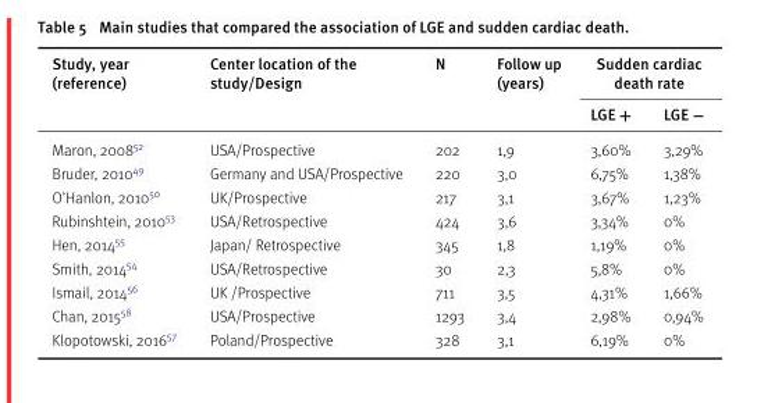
<table><thead><tr><td rowspan="2">Study, year (reference)</td><td rowspan="2">Center location of the study/Design</td><td rowspan="2">N</td><td rowspan="2">Follow up (years)</td><td colspan="2">Sudden cardiac death rate</td></tr><tr><td>LGE +</td><td>LGE −</td></tr></thead><tbody><tr><td>Maron, 2008<sup>52</sup></td><td>USA/Prospective</td><td>202</td><td>1,9</td><td>3,60%</td><td>3,29%</td></tr><tr><td>Bruder, 2010<sup>49</sup></td><td>Germany and USA/Prospective</td><td>220</td><td>3,0</td><td>6,75%</td><td>1,38%</td></tr><tr><td>O’Hanlon, 2010<sup>50</sup></td><td>UK/Prospective</td><td>217</td><td>3,1</td><td>3,67%</td><td>1,23%</td></tr><tr><td>Rubinshtein, 2010<sup>53</sup></td><td>USA/Retrospective</td><td>424</td><td>3,6</td><td>3,34%</td><td>0%</td></tr><tr><td>Hen, 2014<sup>55</sup></td><td>Japan/ Retrospective</td><td>345</td><td>1,8</td><td>1,19%</td><td>0%</td></tr><tr><td>Smith, 2014<sup>54</sup></td><td>USA/Retrospective</td><td>30</td><td>2,3</td><td>5,8%</td><td>0%</td></tr><tr><td>Ismail, 2014<sup>56</sup></td><td>UK /Prospective</td><td>711</td><td>3,5</td><td>4,31%</td><td>1,66%</td></tr><tr><td>Chan, 2015<sup>58</sup></td><td>USA/Prospective</td><td>1293</td><td>3,4</td><td>2,98%</td><td>0,94%</td></tr><tr><td>Klopotowski, 2016<sup>57</sup></td><td>Poland/Prospective</td><td>328</td><td>3,1</td><td>6,19%</td><td>0%</td></tr></tbody></table>